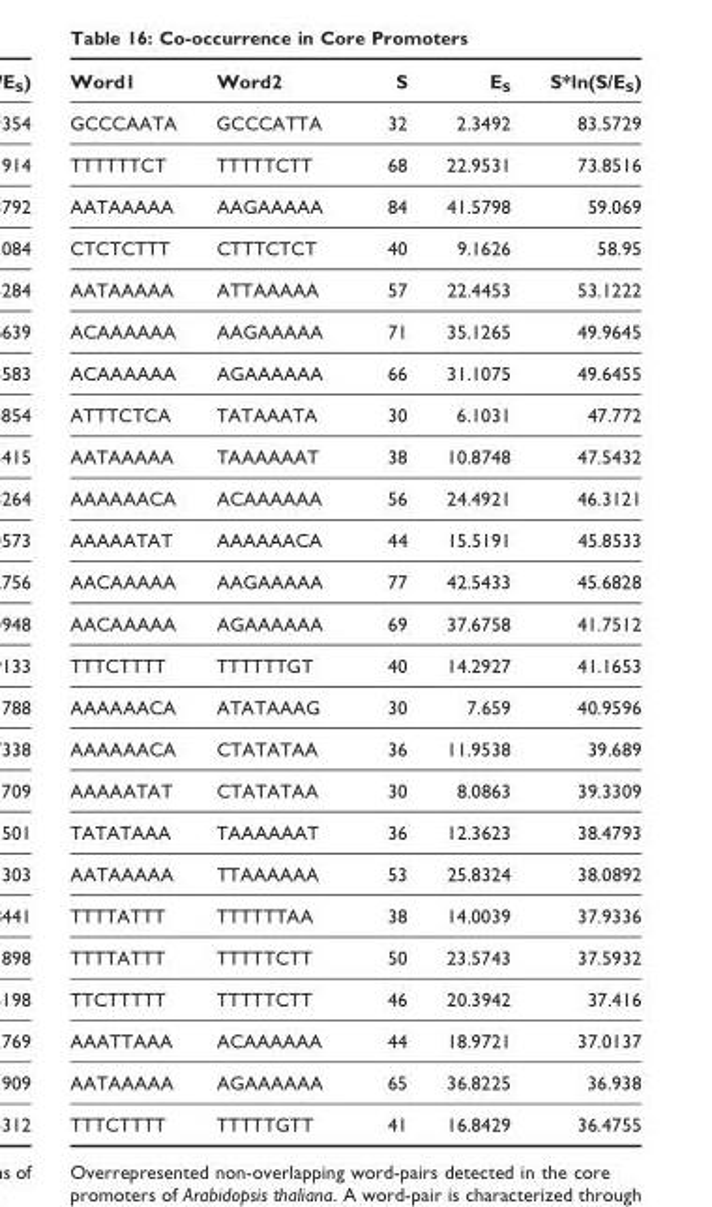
<table><thead><tr><td>Word1</td><td>Word2</td><td>S</td><td>E<sub>S</sub></td><td>S*ln(S/E<sub>S</sub>)</td></tr></thead><tbody><tr><td>GCCCAATA</td><td>GCCCATTA</td><td>32</td><td>2.3492</td><td>83.5729</td></tr><tr><td>TTTTTTCT</td><td>TTTTTCTT</td><td>68</td><td>22.9531</td><td>73.8516</td></tr><tr><td>AATAAAAA</td><td>AAGAAAAA</td><td>84</td><td>41.5798</td><td>59.069</td></tr><tr><td>CTCTCTTT</td><td>CTTTCTCT</td><td>40</td><td>9.1626</td><td>58.95</td></tr><tr><td>AATAAAAA</td><td>ATTAAAAA</td><td>57</td><td>22.4453</td><td>53.1222</td></tr><tr><td>ACAAAAAA</td><td>AAGAAAAA</td><td>71</td><td>35.1265</td><td>49.9645</td></tr><tr><td>ACAAAAAA</td><td>AGAAAAAA</td><td>66</td><td>31.1075</td><td>49.6455</td></tr><tr><td>ATTTCTCA</td><td>TATAAATA</td><td>30</td><td>6.1031</td><td>47.772</td></tr><tr><td>AATAAAAA</td><td>TAAAAAAT</td><td>38</td><td>10.8748</td><td>47.5432</td></tr><tr><td>AAAAAACA</td><td>ACAAAAAA</td><td>56</td><td>24.4921</td><td>46.3121</td></tr><tr><td>AAAAATAT</td><td>AAAAAACA</td><td>44</td><td>15.5191</td><td>45.8533</td></tr><tr><td>AACAAAAA</td><td>AAGAAAAA</td><td>77</td><td>42.5433</td><td>45.6828</td></tr><tr><td>AACAAAAA</td><td>AGAAAAAA</td><td>69</td><td>37.6758</td><td>41.7512</td></tr><tr><td>TTTCTTTT</td><td>TTTTTTGT</td><td>40</td><td>14.2927</td><td>41.1653</td></tr><tr><td>AAAAAACA</td><td>ATATAAAG</td><td>30</td><td>7.659</td><td>40.9596</td></tr><tr><td>AAAAAACA</td><td>CTATATAA</td><td>36</td><td>11.9538</td><td>39.689</td></tr><tr><td>AAAAATAT</td><td>CTATATAA</td><td>30</td><td>8.0863</td><td>39.3309</td></tr><tr><td>TATATAAA</td><td>TAAAAAAT</td><td>36</td><td>12.3623</td><td>38.4793</td></tr><tr><td>AATAAAAA</td><td>TTAAAAAA</td><td>53</td><td>25.8324</td><td>38.0892</td></tr><tr><td>TTTTATTT</td><td>TTTTTTAA</td><td>38</td><td>14.0039</td><td>37.9336</td></tr><tr><td>TTTTATTT</td><td>TTTTTCTT</td><td>50</td><td>23.5743</td><td>37.5932</td></tr><tr><td>TTCTTTTT</td><td>TTTTTCTT</td><td>46</td><td>20.3942</td><td>37.416</td></tr><tr><td>AAATTAAA</td><td>ACAAAAAA</td><td>44</td><td>18.9721</td><td>37.0137</td></tr><tr><td>AATAAAAA</td><td>AGAAAAAA</td><td>65</td><td>36.8225</td><td>36.938</td></tr><tr><td>TTTCTTTT</td><td>TTTTTGTT</td><td>41</td><td>16.8429</td><td>36.4755</td></tr></tbody></table>